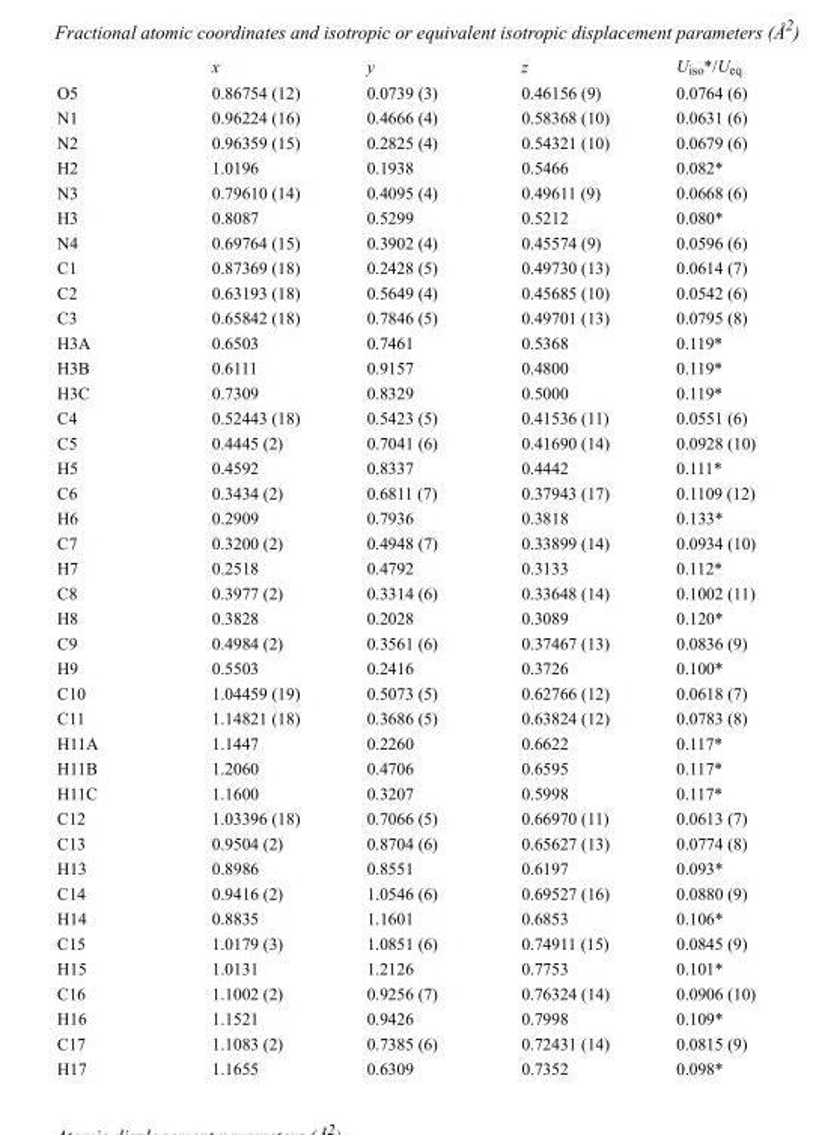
<table><thead><tr><td></td><td>x</td><td>y</td><td>z</td><td>U<sub>iso</sub>*/U<sub>eq</sub></td></tr></thead><tbody><tr><td>O5</td><td>0.86754 (12)</td><td>0.0739 (3)</td><td>0.46156 (9)</td><td>0.0764 (6)</td></tr><tr><td>N1</td><td>0.96224 (16)</td><td>0.4666 (4)</td><td>0.58368 (10)</td><td>0.0631 (6)</td></tr><tr><td>N2</td><td>0.96359 (15)</td><td>0.2825 (4)</td><td>0.54321 (10)</td><td>0.0679 (6)</td></tr><tr><td>H2</td><td>1.0196</td><td>0.1938</td><td>0.5466</td><td>0.082*</td></tr><tr><td>N3</td><td>0.79610 (14)</td><td>0.4095 (4)</td><td>0.49611 (9)</td><td>0.0668 (6)</td></tr><tr><td>H3</td><td>0.8087</td><td>0.5299</td><td>0.5212</td><td>0.080*</td></tr><tr><td>N4</td><td>0.69764 (15)</td><td>0.3902 (4)</td><td>0.45574 (9)</td><td>0.0596 (6)</td></tr><tr><td>C1</td><td>0.87369 (18)</td><td>0.2428 (5)</td><td>0.49730 (13)</td><td>0.0614 (7)</td></tr><tr><td>C2</td><td>0.63193 (18)</td><td>0.5649 (4)</td><td>0.45685 (10)</td><td>0.0542 (6)</td></tr><tr><td>C3</td><td>0.65842 (18)</td><td>0.7846 (5)</td><td>0.49701 (13)</td><td>0.0795 (8)</td></tr><tr><td>H3A</td><td>0.6503</td><td>0.7461</td><td>0.5368</td><td>0.119*</td></tr><tr><td>H3B</td><td>0.6111</td><td>0.9157</td><td>0.4800</td><td>0.119*</td></tr><tr><td>H3C</td><td>0.7309</td><td>0.8329</td><td>0.5000</td><td>0.119*</td></tr><tr><td>C4</td><td>0.52443 (18)</td><td>0.5423 (5)</td><td>0.41536 (11)</td><td>0.0551 (6)</td></tr><tr><td>C5</td><td>0.4445 (2)</td><td>0.7041 (6)</td><td>0.41690 (14)</td><td>0.0928 (10)</td></tr><tr><td>H5</td><td>0.4592</td><td>0.8337</td><td>0.4442</td><td>0.111*</td></tr><tr><td>C6</td><td>0.3434 (2)</td><td>0.6811 (7)</td><td>0.37943 (17)</td><td>0.1109 (12)</td></tr><tr><td>H6</td><td>0.2909</td><td>0.7936</td><td>0.3818</td><td>0.133*</td></tr><tr><td>C7</td><td>0.3200 (2)</td><td>0.4948 (7)</td><td>0.33899 (14)</td><td>0.0934 (10)</td></tr><tr><td>H7</td><td>0.2518</td><td>0.4792</td><td>0.3133</td><td>0.112*</td></tr><tr><td>C8</td><td>0.3977 (2)</td><td>0.3314 (6)</td><td>0.33648 (14)</td><td>0.1002 (11)</td></tr><tr><td>H8</td><td>0.3828</td><td>0.2028</td><td>0.3089</td><td>0.120*</td></tr><tr><td>C9</td><td>0.4984 (2)</td><td>0.3561 (6)</td><td>0.37467 (13)</td><td>0.0836 (9)</td></tr><tr><td>H9</td><td>0.5503</td><td>0.2416</td><td>0.3726</td><td>0.100*</td></tr><tr><td>C10</td><td>1.04459 (19)</td><td>0.5073 (5)</td><td>0.62766 (12)</td><td>0.0618 (7)</td></tr><tr><td>C11</td><td>1.14821 (18)</td><td>0.3686 (5)</td><td>0.63824 (12)</td><td>0.0783 (8)</td></tr><tr><td>H11A</td><td>1.1447</td><td>0.2260</td><td>0.6622</td><td>0.117*</td></tr><tr><td>H11B</td><td>1.2060</td><td>0.4706</td><td>0.6595</td><td>0.117*</td></tr><tr><td>H11C</td><td>1.1600</td><td>0.3207</td><td>0.5998</td><td>0.117*</td></tr><tr><td>C12</td><td>1.03396 (18)</td><td>0.7066 (5)</td><td>0.66970 (11)</td><td>0.0613 (7)</td></tr><tr><td>C13</td><td>0.9504 (2)</td><td>0.8704 (6)</td><td>0.65627 (13)</td><td>0.0774 (8)</td></tr><tr><td>H13</td><td>0.8986</td><td>0.8551</td><td>0.6197</td><td>0.093*</td></tr><tr><td>C14</td><td>0.9416 (2)</td><td>1.0546 (6)</td><td>0.69527 (16)</td><td>0.0880 (9)</td></tr><tr><td>H14</td><td>0.8835</td><td>1.1601</td><td>0.6853</td><td>0.106*</td></tr><tr><td>C15</td><td>1.0179 (3)</td><td>1.0851 (6)</td><td>0.74911 (15)</td><td>0.0845 (9)</td></tr><tr><td>H15</td><td>1.0131</td><td>1.2126</td><td>0.7753</td><td>0.101*</td></tr><tr><td>C16</td><td>1.1002 (2)</td><td>0.9256 (7)</td><td>0.76324 (14)</td><td>0.0906 (10)</td></tr><tr><td>H16</td><td>1.1521</td><td>0.9426</td><td>0.7998</td><td>0.109*</td></tr><tr><td>C17</td><td>1.1083 (2)</td><td>0.7385 (6)</td><td>0.72431 (14)</td><td>0.0815 (9)</td></tr><tr><td>H17</td><td>1.1655</td><td>0.6309</td><td>0.7352</td><td>0.098*</td></tr></tbody></table>